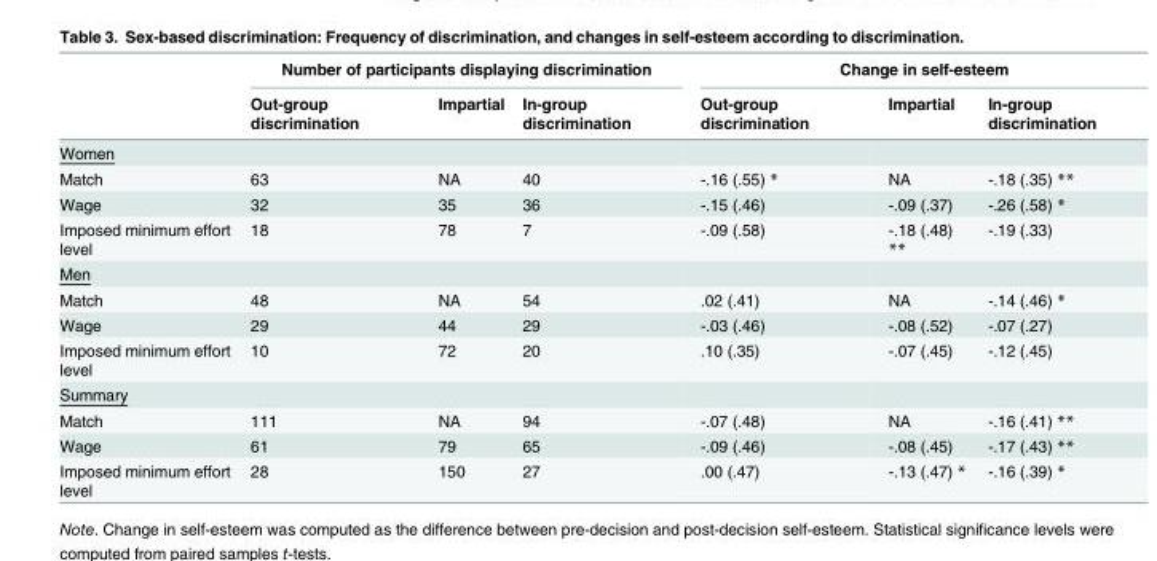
<table><thead><tr><td rowspan="2"></td><td colspan="3">Number of participants displaying discrimination</td><td colspan="3">Change in self-esteem</td></tr><tr><td>Out-group discrimination</td><td>Impartial</td><td>In-group discrimination</td><td>Out-group discrimination</td><td>Impartial</td><td>In-group discrimination</td></tr></thead><tbody><tr><td colspan="7">Women</td></tr><tr><td>Match</td><td>63</td><td>NA</td><td>40</td><td>-.16 (.55) *</td><td>NA</td><td>-.18 (.35) **</td></tr><tr><td>Wage</td><td>32</td><td>35</td><td>36</td><td>-.15 (.46)</td><td>-.09 (.37)</td><td>-.26 (.58) *</td></tr><tr><td>Imposed minimum effort level</td><td>18</td><td>78</td><td>7</td><td>-.09 (.58)</td><td>-.18 (.48) **</td><td>-.19 (.33)</td></tr><tr><td colspan="7">Men</td></tr><tr><td>Match</td><td>48</td><td>NA</td><td>54</td><td>.02 (.41)</td><td>NA</td><td>-.14 (.46) *</td></tr><tr><td>Wage</td><td>29</td><td>44</td><td>29</td><td>-.03 (.46)</td><td>-.08 (.52)</td><td>-.07 (.27)</td></tr><tr><td>Imposed minimum effort level</td><td>10</td><td>72</td><td>20</td><td>.10 (.35)</td><td>-.07 (.45)</td><td>-.12 (.45)</td></tr><tr><td colspan="7">Summary</td></tr><tr><td>Match</td><td>111</td><td>NA</td><td>94</td><td>-.07 (.48)</td><td>NA</td><td>-.16 (.41) **</td></tr><tr><td>Wage</td><td>61</td><td>79</td><td>65</td><td>-.09 (.46)</td><td>-.08 (.45)</td><td>-.17 (.43) **</td></tr><tr><td>Imposed minimum effort level</td><td>28</td><td>150</td><td>27</td><td>.00 (.47)</td><td>-.13 (.47) *</td><td>-.16 (.39) *</td></tr></tbody></table>